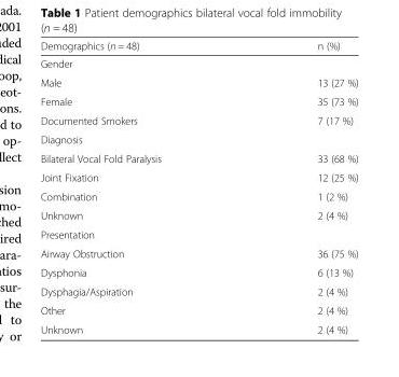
<table><thead><tr><td>Demographics (n = 48)</td><td>n (%)</td></tr></thead><tbody><tr><td colspan="2">Gender</td></tr><tr><td>Male</td><td>13 (27 %)</td></tr><tr><td>Female</td><td>35 (73 %)</td></tr><tr><td>Documented Smokers</td><td>7 (17 %)</td></tr><tr><td colspan="2">Diagnosis</td></tr><tr><td>Bilateral Vocal Fold Paralysis</td><td>33 (68 %)</td></tr><tr><td>Joint Fixation</td><td>12 (25 %)</td></tr><tr><td>Combination</td><td>1 (2 %)</td></tr><tr><td>Unknown</td><td>2 (4 %)</td></tr><tr><td colspan="2">Presentation</td></tr><tr><td>Airway Obstruction</td><td>36 (75 %)</td></tr><tr><td>Dysphonia</td><td>6 (13 %)</td></tr><tr><td>Dysphagia/Aspiration</td><td>2 (4 %)</td></tr><tr><td>Other</td><td>2 (4 %)</td></tr><tr><td>Unknown</td><td>2 (4 %)</td></tr></tbody></table>